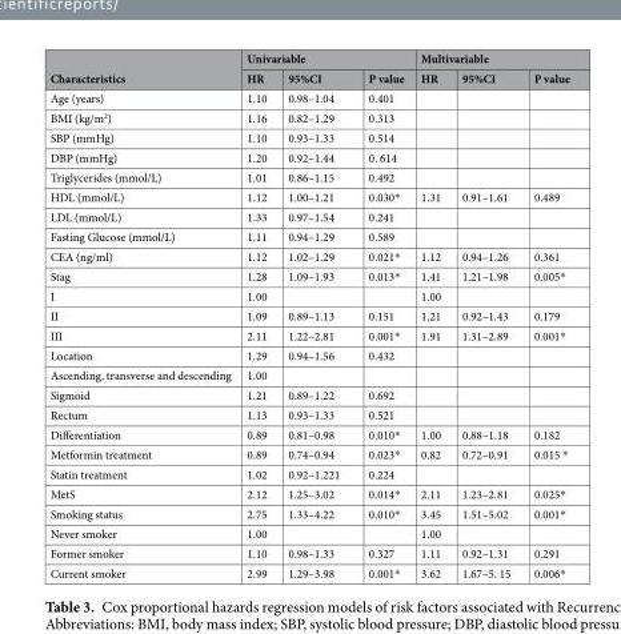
<table><thead><tr><td rowspan="2">Characteristics</td><td colspan="3">Univariable</td><td colspan="3">Multivariable</td></tr><tr><td>HR</td><td>95%CI</td><td>P value</td><td>HR</td><td>95%CI</td><td>P value</td></tr></thead><tbody><tr><td>Age (years)</td><td>1.10</td><td>0.98–1.04</td><td>0.401</td><td></td><td></td><td></td></tr><tr><td>BMI (kg/m<sup>2</sup>)</td><td>1.16</td><td>0.82–1.29</td><td>0.313</td><td></td><td></td><td></td></tr><tr><td>SBP (mmHg)</td><td>1.10</td><td>0.93–1.33</td><td>0.514</td><td></td><td></td><td></td></tr><tr><td>DBP (mmHg)</td><td>1.20</td><td>0.92–1.44</td><td>0. 614</td><td></td><td></td><td></td></tr><tr><td>Triglycerides (mmol/L)</td><td>1.01</td><td>0.86–1.15</td><td>0.492</td><td></td><td></td><td></td></tr><tr><td>HDL (mmol/L)</td><td>1.12</td><td>1.00–1.21</td><td>0.030*</td><td>1.31</td><td>0.91–1.61</td><td>0.489</td></tr><tr><td>LDL (mmol/L)</td><td>1.33</td><td>0.97–1.54</td><td>0.241</td><td></td><td></td><td></td></tr><tr><td>Fasting Glucose (mmol/L)</td><td>1.11</td><td>0.94–1.29</td><td>0.589</td><td></td><td></td><td></td></tr><tr><td>CEA (ng/ml)</td><td>1.12</td><td>1.02–1.29</td><td>0.021*</td><td>1.12</td><td>0.94–1.26</td><td>0.361</td></tr><tr><td>Stag</td><td>1.28</td><td>1.09–1.93</td><td>0.013*</td><td>1.41</td><td>1.21–1.98</td><td>0.005*</td></tr><tr><td>I</td><td>1.00</td><td></td><td></td><td>1.00</td><td></td><td></td></tr><tr><td>II</td><td>1.09</td><td>0.89–1.13</td><td>0.151</td><td>1.21</td><td>0.92–1.43</td><td>0.179</td></tr><tr><td>III</td><td>2.11</td><td>1.22–2.81</td><td>0.001*</td><td>1.91</td><td>1.31–2.89</td><td>0.001*</td></tr><tr><td>Location</td><td>1.29</td><td>0.94–1.56</td><td>0.432</td><td></td><td></td><td></td></tr><tr><td>Ascending, transverse and descending</td><td>1.00</td><td></td><td></td><td></td><td></td><td></td></tr><tr><td>Sigmoid</td><td>1.21</td><td>0.89–1.22</td><td>0.692</td><td></td><td></td><td></td></tr><tr><td>Rectum</td><td>1.13</td><td>0.93–1.33</td><td>0.521</td><td></td><td></td><td></td></tr><tr><td>Differentiation</td><td>0.89</td><td>0.81–0.98</td><td>0.010*</td><td>1.00</td><td>0.88–1.18</td><td>0.182</td></tr><tr><td>Metformin treatment</td><td>0.89</td><td>0.74–0.94</td><td>0.023*</td><td>0.82</td><td>0.72–0.91</td><td>0.015 *</td></tr><tr><td>Statin treatment</td><td>1.02</td><td>0.92–1.221</td><td>0.224</td><td></td><td></td><td></td></tr><tr><td>MetS</td><td>2.12</td><td>1.25–3.02</td><td>0.014*</td><td>2.11</td><td>1.23–2.81</td><td>0.025*</td></tr><tr><td>Smoking status</td><td>2.75</td><td>1.33–4.22</td><td>0.010*</td><td>3.45</td><td>1.51–5.02</td><td>0.001*</td></tr><tr><td>Never smoker</td><td>1.00</td><td></td><td></td><td>1.00</td><td></td><td></td></tr><tr><td>Former smoker</td><td>1.10</td><td>0.98–1.33</td><td>0.327</td><td>1.11</td><td>0.92–1.31</td><td>0.291</td></tr><tr><td>Current smoker</td><td>2.99</td><td>1.29–3.98</td><td>0.001*</td><td>3.62</td><td>1.67–5. 15</td><td>0.006*</td></tr></tbody></table>